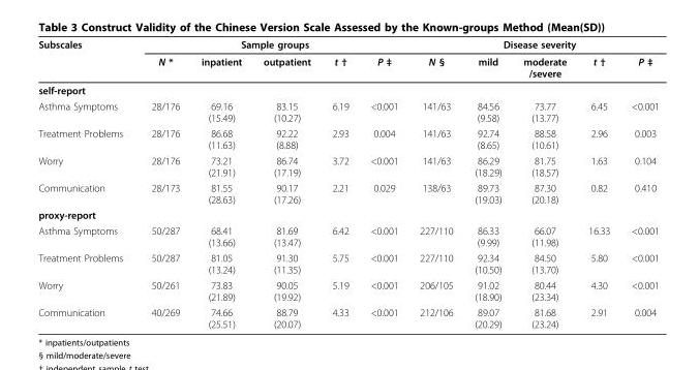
<table><thead><tr><td rowspan="2">Subscales</td><td colspan="5">Sample groups</td><td colspan="5">Disease severity</td></tr><tr><td>N *</td><td>inpatient</td><td>outpatient</td><td>t †</td><td>P ‡</td><td>N §</td><td>mild</td><td>moderate /severe</td><td>t †</td><td>P ‡</td></tr></thead><tbody><tr><td colspan="11">self-report</td></tr><tr><td>Asthma Symptoms</td><td>28/176</td><td>69.16 (15.49)</td><td>83.15 (10.27)</td><td>6.19</td><td>&lt;0.001</td><td>141/63</td><td>84.56 (9.58)</td><td>73.77 (13.77)</td><td>6.45</td><td>&lt;0.001</td></tr><tr><td>Treatment Problems</td><td>28/176</td><td>86.68 (11.63)</td><td>92.22 (8.88)</td><td>2.93</td><td>0.004</td><td>141/63</td><td>92.74 (8.65)</td><td>88.58 (10.61)</td><td>2.96</td><td>0.003</td></tr><tr><td>Worry</td><td>28/176</td><td>73.21 (21.91)</td><td>86.74 (17.19)</td><td>3.72</td><td>&lt;0.001</td><td>141/63</td><td>86.29 (18.29)</td><td>81.75 (18.57)</td><td>1.63</td><td>0.104</td></tr><tr><td>Communication</td><td>28/173</td><td>81.55 (28.63)</td><td>90.17 (17.26)</td><td>2.21</td><td>0.029</td><td>138/63</td><td>89.73 (19.03)</td><td>87.30 (20.18)</td><td>0.82</td><td>0.410</td></tr><tr><td colspan="11">proxy-report</td></tr><tr><td>Asthma Symptoms</td><td>50/287</td><td>68.41 (13.66)</td><td>81.69 (13.47)</td><td>6.42</td><td>&lt;0.001</td><td>227/110</td><td>86.33 (9.99)</td><td>66.07 (11.98)</td><td>16.33</td><td>&lt;0.001</td></tr><tr><td>Treatment Problems</td><td>50/287</td><td>81.05 (13.24)</td><td>91.30 (11.35)</td><td>5.75</td><td>&lt;0.001</td><td>227/110</td><td>92.34 (10.50)</td><td>84.50 (13.70)</td><td>5.80</td><td>&lt;0.001</td></tr><tr><td>Worry</td><td>50/261</td><td>73.83 (21.89)</td><td>90.05 (19.92)</td><td>5.19</td><td>&lt;0.001</td><td>206/105</td><td>91.02 (18.90)</td><td>80.44 (23.34)</td><td>4.30</td><td>&lt;0.001</td></tr><tr><td>Communication</td><td>40/269</td><td>74.66 (25.51)</td><td>88.79 (20.07)</td><td>4.33</td><td>&lt;0.001</td><td>212/106</td><td>89.07 (20.29)</td><td>81.68 (23.24)</td><td>2.91</td><td>0.004</td></tr></tbody></table>